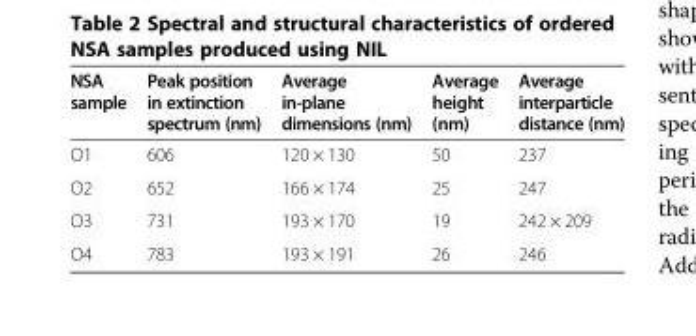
<table><thead><tr><td>NSA sample</td><td>Peak position in extinction spectrum (nm)</td><td>Average in-plane dimensions (nm)</td><td>Average height (nm)</td><td>Average interparticle distance (nm)</td></tr></thead><tbody><tr><td>O1</td><td>606</td><td>120 × 130</td><td>50</td><td>237</td></tr><tr><td>O2</td><td>652</td><td>166 × 174</td><td>25</td><td>247</td></tr><tr><td>O3</td><td>731</td><td>193 × 170</td><td>19</td><td>242 × 209</td></tr><tr><td>O4</td><td>783</td><td>193 × 191</td><td>26</td><td>246</td></tr></tbody></table>